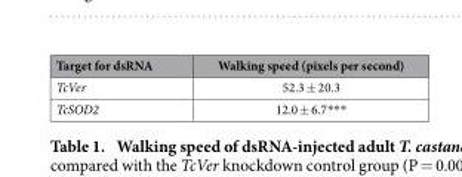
<table><thead><tr><td>Target for dsRNA</td><td>Walking speed (pixels per second)</td></tr></thead><tbody><tr><td>TcVer</td><td>52.3 ± 20.3</td></tr><tr><td>TcSOD2</td><td>12.0 ± 6.7* * *</td></tr></tbody></table>